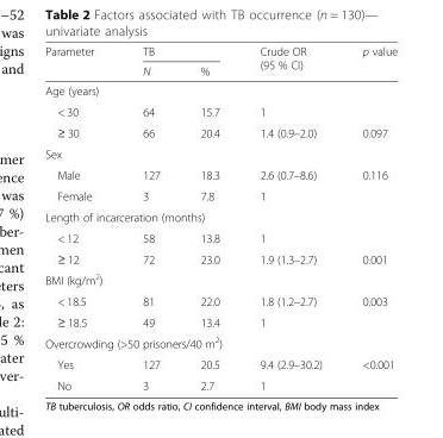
<table><thead><tr><td rowspan="2">Parameter</td><td colspan="2">TB</td><td rowspan="2">Crude OR (95 % CI)</td><td rowspan="2">p value</td></tr><tr><td>N</td><td>%</td></tr></thead><tbody><tr><td colspan="5">Age (years)</td></tr><tr><td>&lt; 30</td><td>64</td><td>15.7</td><td>1</td><td></td></tr><tr><td>≥ 30</td><td>66</td><td>20.4</td><td>1.4 (0.9–2.0)</td><td>0.097</td></tr><tr><td colspan="5">Sex</td></tr><tr><td>Male</td><td>127</td><td>18.3</td><td>2.6 (0.7–8.6)</td><td>0.116</td></tr><tr><td>Female</td><td>3</td><td>7.8</td><td>1</td><td></td></tr><tr><td colspan="5">Length of incarceration (months)</td></tr><tr><td>&lt; 12</td><td>58</td><td>13.8</td><td>1</td><td></td></tr><tr><td>≥ 12</td><td>72</td><td>23.0</td><td>1.9 (1.3–2.7)</td><td>0.001</td></tr><tr><td colspan="5">BMI (kg/m<sup>2</sup>)</td></tr><tr><td>&lt; 18.5</td><td>81</td><td>22.0</td><td>1.8 (1.2–2.7)</td><td>0.003</td></tr><tr><td>≥ 18.5</td><td>49</td><td>13.4</td><td>1</td><td></td></tr><tr><td colspan="5">Overcrowding (&gt;50 prisoners/40 m<sup>2</sup>)</td></tr><tr><td>Yes</td><td>127</td><td>20.5</td><td>9.4 (2.9–30.2)</td><td>&lt;0.001</td></tr><tr><td>No</td><td>3</td><td>2.7</td><td>1</td><td></td></tr></tbody></table>